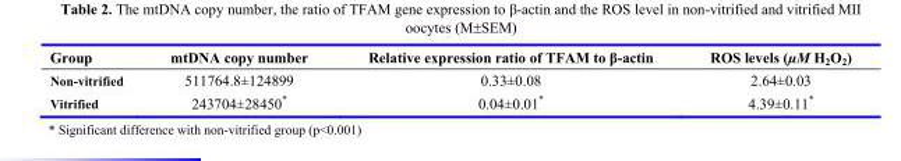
<table><thead><tr><td>Group</td><td>mtDNA copy number</td><td>Relative expression ratio of TFAM to β-actin</td><td>ROS levels (µM H<sub>2</sub>O<sub>2</sub>)</td></tr></thead><tbody><tr><td>Non-vitrified</td><td>511764.8±124899</td><td>0.33±0.08</td><td>2.64±0.03</td></tr><tr><td>Vitrified</td><td>243704±28450*</td><td>0.04±0.01*</td><td>4.39±0.11*</td></tr></tbody></table>